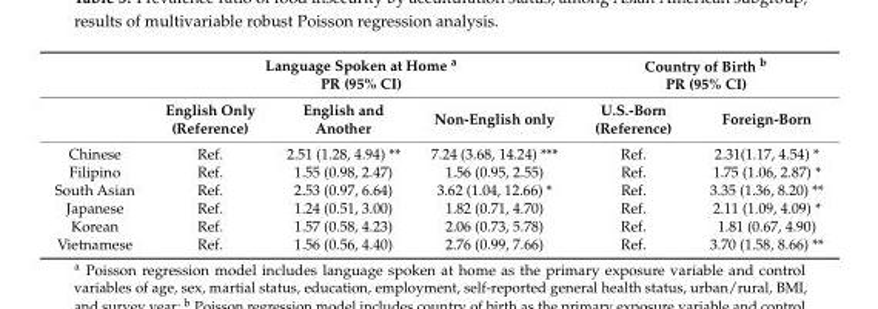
<table><thead><tr><td rowspan="2"></td><td colspan="3">Language Spoken at Home <sup>a</sup> PR (95% CI)</td><td colspan="2">Country of Birth <sup>b</sup> PR (95% CI)</td></tr><tr><td>English Only (Reference)</td><td>English and Another</td><td>Non-English only</td><td>U.S.-Born (Reference)</td><td>Foreign-Born</td></tr></thead><tbody><tr><td>Chinese</td><td>Ref.</td><td>2.51 (1.28, 4.94) **</td><td>7.24 (3.68, 14.24) ***</td><td>Ref.</td><td>2.31(1.17, 4.54) *</td></tr><tr><td>Filipino</td><td>Ref.</td><td>1.55 (0.98, 2.47)</td><td>1.56 (0.95, 2.55)</td><td>Ref.</td><td>1.75 (1.06, 2.87) *</td></tr><tr><td>South Asian</td><td>Ref.</td><td>2.53 (0.97, 6.64)</td><td>3.62 (1.04, 12.66) *</td><td>Ref.</td><td>3.35 (1.36, 8.20) **</td></tr><tr><td>Japanese</td><td>Ref.</td><td>1.24 (0.51, 3.00)</td><td>1.82 (0.71, 4.70)</td><td>Ref.</td><td>2.11 (1.09, 4.09) *</td></tr><tr><td>Korean</td><td>Ref.</td><td>1.57 (0.58, 4.23)</td><td>2.06 (0.73, 5.78)</td><td>Ref.</td><td>1.81 (0.67, 4.90)</td></tr><tr><td>Vietnamese</td><td>Ref.</td><td>1.56 (0.56, 4.40)</td><td>2.76 (0.99, 7.66)</td><td>Ref.</td><td>3.70 (1.58, 8.66) **</td></tr></tbody></table>